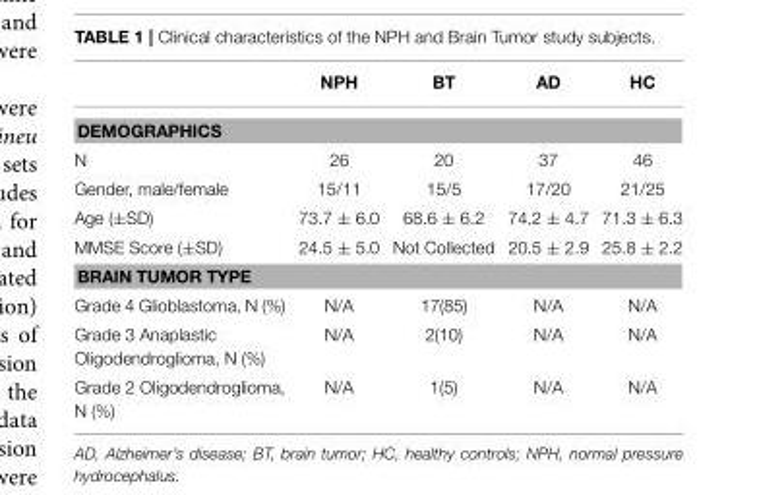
<table><thead><tr><td></td><td>NPH</td><td>BT</td><td>AD</td><td>HC</td></tr></thead><tbody><tr><td colspan="5">DEMOGRAPHICS</td></tr><tr><td>N</td><td>26</td><td>20</td><td>37</td><td>46</td></tr><tr><td>Gender, male/female</td><td>15/11</td><td>15/5</td><td>17/20</td><td>21/25</td></tr><tr><td>Age (±SD)</td><td>73.7 ± 6.0</td><td>68.6 ± 6.2</td><td>74.2 ± 4.7</td><td>71.3 ± 6.3</td></tr><tr><td>MMSE Score (±SD)</td><td>24.5 ± 5.0</td><td>Not Collected</td><td>20.5 ± 2.9</td><td>25.8 ± 2.2</td></tr><tr><td colspan="5">BRAIN TUMOR TYPE</td></tr><tr><td>Grade 4 Glioblastoma, N (%)</td><td>N/A</td><td>17(85)</td><td>N/A</td><td>N/A</td></tr><tr><td>Grade 3 Anaplastic Oligodendroglioma, N (%)</td><td>N/A</td><td>2(10)</td><td>N/A</td><td>N/A</td></tr><tr><td>Grade 2 Oligodendroglioma, N (%)</td><td>N/A</td><td>1(5)</td><td>N/A</td><td>N/A</td></tr></tbody></table>